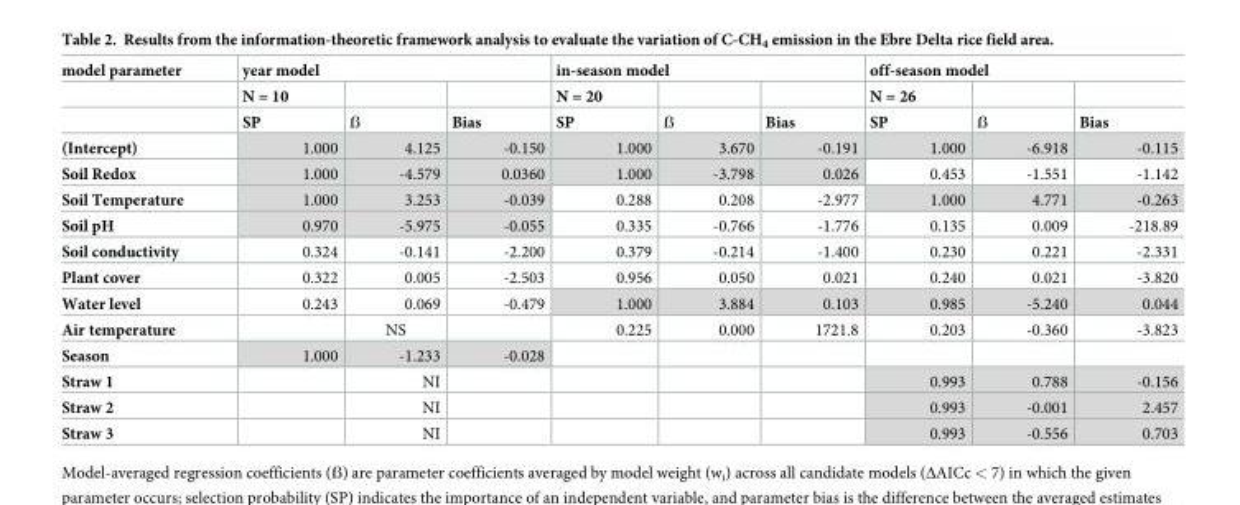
<table><thead><tr><td rowspan="3">model parameter</td><td colspan="3">year model</td><td colspan="3">in-season model</td><td colspan="3">off-season model</td></tr><tr><td rowspan="2">N = 10 SP</td><td rowspan="2">ẞ</td><td rowspan="2">Bias</td><td rowspan="2">N = 20 SP</td><td rowspan="2">ẞ</td><td rowspan="2">Bias</td><td rowspan="2">N = 26 SP</td><td rowspan="2">ẞ</td><td rowspan="2">Bias</td></tr><tr></tr></thead><tbody><tr><td>(Intercept)</td><td>1.000</td><td>4.125</td><td>-0.150</td><td>1.000</td><td>3.670</td><td>-0.191</td><td>1.000</td><td>-6.918</td><td>-0.115</td></tr><tr><td>Soil Redox</td><td>1.000</td><td>-4.579</td><td>0.0360</td><td>1.000</td><td>-3.798</td><td>0.026</td><td>0.453</td><td>-1.551</td><td>-1.142</td></tr><tr><td>Soil Temperature</td><td>1.000</td><td>3.253</td><td>-0.039</td><td>0.288</td><td>0.208</td><td>-2.977</td><td>1.000</td><td>4.771</td><td>-0.263</td></tr><tr><td>Soil pH</td><td>0.970</td><td>-5.975</td><td>-0.055</td><td>0.335</td><td>-0.766</td><td>-1.776</td><td>0.135</td><td>0.009</td><td>-218.89</td></tr><tr><td>Soil conductivity</td><td>0.324</td><td>-0.141</td><td>-2.200</td><td>0.379</td><td>-0.214</td><td>-1.400</td><td>0.230</td><td>0.221</td><td>-2.331</td></tr><tr><td>Plant cover</td><td>0.322</td><td>0.005</td><td>-2.503</td><td>0.956</td><td>0.050</td><td>0.021</td><td>0.240</td><td>0.021</td><td>-3.820</td></tr><tr><td>Water level</td><td>0.243</td><td>0.069</td><td>-0.479</td><td>1.000</td><td>3.884</td><td>0.103</td><td>0.985</td><td>-5.240</td><td>0.044</td></tr><tr><td>Air temperature</td><td></td><td>NS</td><td></td><td>0.225</td><td>0.000</td><td>1721.8</td><td>0.203</td><td>-0.360</td><td>-3.823</td></tr><tr><td>Season</td><td>1.000</td><td>-1.233</td><td>-0.028</td><td></td><td></td><td></td><td></td><td></td><td></td></tr><tr><td>Straw 1</td><td></td><td>NI</td><td></td><td></td><td></td><td></td><td>0.993</td><td>0.788</td><td>-0.156</td></tr><tr><td>Straw 2</td><td></td><td>NI</td><td></td><td></td><td></td><td></td><td>0.993</td><td>-0.001</td><td>2.457</td></tr><tr><td>Straw 3</td><td></td><td>NI</td><td></td><td></td><td></td><td></td><td>0.993</td><td>-0.556</td><td>0.703</td></tr></tbody></table>